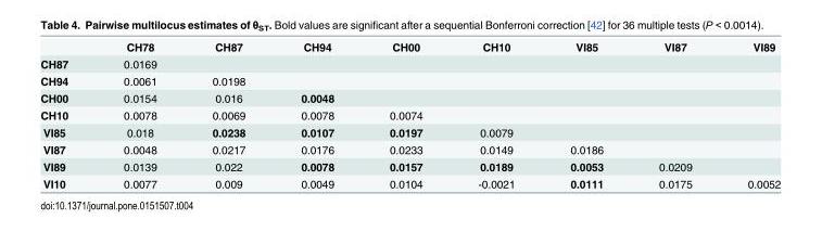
<table><thead><tr><td></td><td>CH78</td><td>CH87</td><td>CH94</td><td>CH00</td><td>CH10</td><td>VI85</td><td>VI87</td><td>VI89</td></tr></thead><tbody><tr><td>CH87</td><td>0.0169</td><td></td><td></td><td></td><td></td><td></td><td></td><td></td></tr><tr><td>CH94</td><td>0.0061</td><td>0.0198</td><td></td><td></td><td></td><td></td><td></td><td></td></tr><tr><td>CH00</td><td>0.0154</td><td>0.016</td><td>0.0048</td><td></td><td></td><td></td><td></td><td></td></tr><tr><td>CH10</td><td>0.0078</td><td>0.0069</td><td>0.0078</td><td>0.0074</td><td></td><td></td><td></td><td></td></tr><tr><td>VI85</td><td>0.018</td><td>0.0238</td><td>0.0107</td><td>0.0197</td><td>0.0079</td><td></td><td></td><td></td></tr><tr><td>VI87</td><td>0.0048</td><td>0.0217</td><td>0.0176</td><td>0.0233</td><td>0.0149</td><td>0.0186</td><td></td><td></td></tr><tr><td>VI89</td><td>0.0139</td><td>0.022</td><td>0.0078</td><td>0.0157</td><td>0.0189</td><td>0.0053</td><td>0.0209</td><td></td></tr><tr><td>VI10</td><td>0.0077</td><td>0.009</td><td>0.0049</td><td>0.0104</td><td>-0.0021</td><td>0.0111</td><td>0.0175</td><td>0.0052</td></tr></tbody></table>